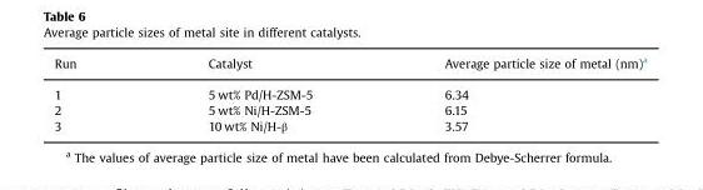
<table><thead><tr><td>Run</td><td>Catalyst</td><td>Average particle size of metal (nm)<sup>a</sup></td></tr></thead><tbody><tr><td>1</td><td>5 wt% Pd/H-ZSM-5</td><td>6.34</td></tr><tr><td>2</td><td>5 wt% Ni/H-ZSM-5</td><td>6.15</td></tr><tr><td>3</td><td>10 wt% Ni/H-β</td><td>3.57</td></tr></tbody></table>